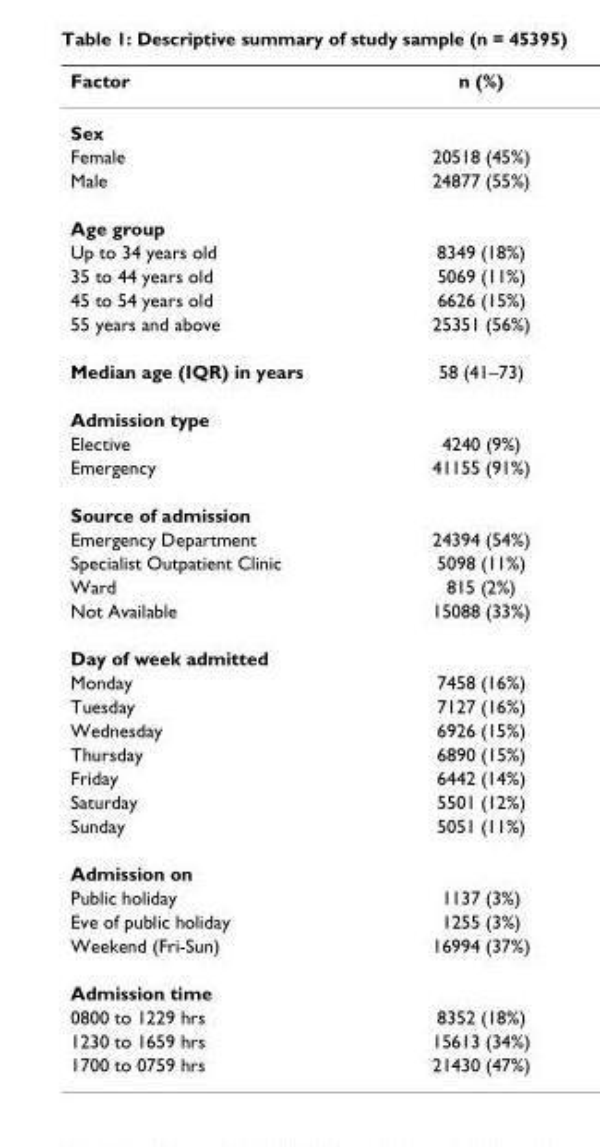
<table><thead><tr><td>Factor</td><td>n (%)</td></tr></thead><tbody><tr><td colspan="2">Sex</td></tr><tr><td>Female</td><td>20518 (45%)</td></tr><tr><td>Male</td><td>24877 (55%)</td></tr><tr><td colspan="2">Age group</td></tr><tr><td>Up to 34 years old</td><td>8349 (18%)</td></tr><tr><td>35 to 44 years old</td><td>5069 (11%)</td></tr><tr><td>45 to 54 years old</td><td>6626 (15%)</td></tr><tr><td>55 years and above</td><td>25351 (56%)</td></tr><tr><td>Median age (IQR) in years</td><td>58 (41–73)</td></tr><tr><td colspan="2">Admission type</td></tr><tr><td>Elective</td><td>4240 (9%)</td></tr><tr><td>Emergency</td><td>41155 (91%)</td></tr><tr><td colspan="2">Source of admission</td></tr><tr><td>Emergency Department</td><td>24394 (54%)</td></tr><tr><td>Specialist Outpatient Clinic</td><td>5098 (11%)</td></tr><tr><td>Ward</td><td>815 (2%)</td></tr><tr><td>Not Available</td><td>15088 (33%)</td></tr><tr><td colspan="2">Day of week admitted</td></tr><tr><td>Monday</td><td>7458 (16%)</td></tr><tr><td>Tuesday</td><td>7127 (16%)</td></tr><tr><td>Wednesday</td><td>6926 (15%)</td></tr><tr><td>Thursday</td><td>6890 (15%)</td></tr><tr><td>Friday</td><td>6442 (14%)</td></tr><tr><td>Saturday</td><td>5501 (12%)</td></tr><tr><td>Sunday</td><td>5051 (11%)</td></tr><tr><td colspan="2">Admission on</td></tr><tr><td>Public holiday</td><td>1137 (3%)</td></tr><tr><td>Eve of public holiday</td><td>1255 (3%)</td></tr><tr><td>Weekend (Fri-Sun)</td><td>16994 (37%)</td></tr><tr><td colspan="2">Admission time</td></tr><tr><td>0800 to 1229 hrs</td><td>8352 (18%)</td></tr><tr><td>1230 to 1659 hrs</td><td>15613 (34%)</td></tr><tr><td>1700 to 0759 hrs</td><td>21430 (47%)</td></tr></tbody></table>